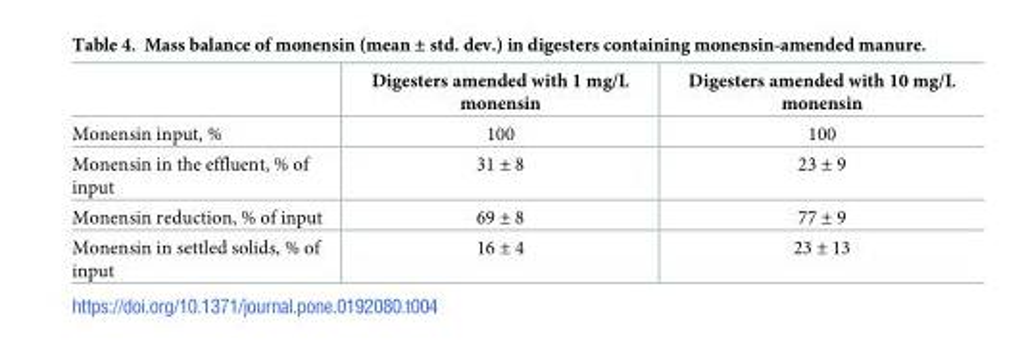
<table><thead><tr><td></td><td>Digesters amended with 1 mg/L monensin</td><td>Digesters amended with 10 mg/L monensin</td></tr></thead><tbody><tr><td>Monensin input, %</td><td>100</td><td>100</td></tr><tr><td>Monensin in the effluent, % of input</td><td>31 ± 8</td><td>23 ± 9</td></tr><tr><td>Monensin reduction, % of input</td><td>69 ± 8</td><td>77 ± 9</td></tr><tr><td>Monensin in settled solids, % of input</td><td>16 ± 4</td><td>23 ± 13</td></tr></tbody></table>